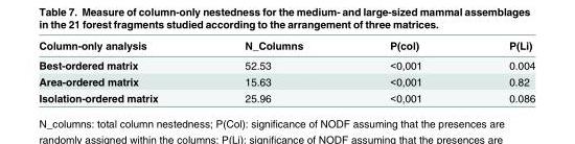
<table><thead><tr><td>Column-only analysis</td><td>N_Columns</td><td>P(col)</td><td>P(Li)</td></tr></thead><tbody><tr><td>Best-ordered matrix</td><td>52.53</td><td>&lt;0,001</td><td>0.004</td></tr><tr><td>Area-ordered matrix</td><td>15.63</td><td>&lt;0,001</td><td>0.82</td></tr><tr><td>Isolation-ordered matrix</td><td>25.96</td><td>&lt;0,001</td><td>0.086</td></tr></tbody></table>